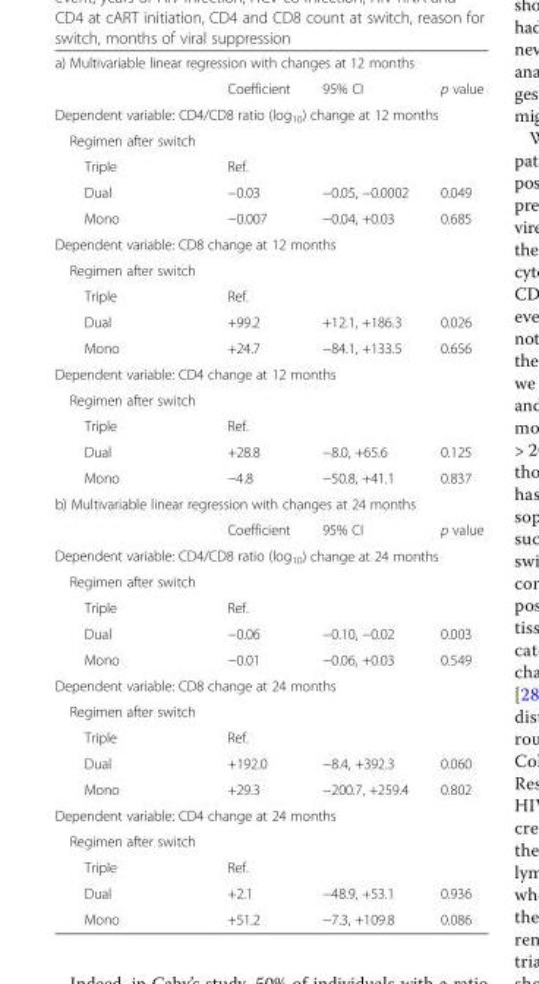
<table><tbody><tr><td colspan="4">a) Multivariable linear regression with changes at 12 months</td></tr><tr><td></td><td>Coefficient</td><td>95% CI</td><td>p value</td></tr><tr><td colspan="4">Dependent variable: CD4/CD8 ratio (log<sub>10</sub>) change at 12 months</td></tr><tr><td colspan="4">Regimen after switch</td></tr><tr><td>Triple</td><td>Ref.</td><td></td><td></td></tr><tr><td>Dual</td><td>−0.03</td><td>−0.05, −0.0002</td><td>0.049</td></tr><tr><td>Mono</td><td>−0.007</td><td>−0.04, +0.03</td><td>0.685</td></tr><tr><td colspan="4">Dependent variable: CD8 change at 12 months</td></tr><tr><td colspan="4">Regimen after switch</td></tr><tr><td>Triple</td><td>Ref.</td><td></td><td></td></tr><tr><td>Dual</td><td>+99.2</td><td>+12.1, +186.3</td><td>0.026</td></tr><tr><td>Mono</td><td>+24.7</td><td>−84.1, +133.5</td><td>0.656</td></tr><tr><td colspan="4">Dependent variable: CD4 change at 12 months</td></tr><tr><td colspan="4">Regimen after switch</td></tr><tr><td>Triple</td><td>Ref.</td><td></td><td></td></tr><tr><td>Dual</td><td>+28.8</td><td>−8.0, +65.6</td><td>0.125</td></tr><tr><td>Mono</td><td>−4.8</td><td>−50.8, +41.1</td><td>0.837</td></tr><tr><td colspan="4">b) Multivariable linear regression with changes at 24 months</td></tr><tr><td></td><td>Coefficient</td><td>95% CI</td><td>p value</td></tr><tr><td colspan="4">Dependent variable: CD4/CD8 ratio (log<sub>10</sub>) change at 24 months</td></tr><tr><td colspan="4">Regimen after switch</td></tr><tr><td>Triple</td><td>Ref.</td><td></td><td></td></tr><tr><td>Dual</td><td>−0.06</td><td>−0.10, −0.02</td><td>0.003</td></tr><tr><td>Mono</td><td>−0.01</td><td>−0.06, +0.03</td><td>0.549</td></tr><tr><td colspan="4">Dependent variable: CD8 change at 24 months</td></tr><tr><td colspan="4">Regimen after switch</td></tr><tr><td>Triple</td><td>Ref.</td><td></td><td></td></tr><tr><td>Dual</td><td>+192.0</td><td>−8.4, +392.3</td><td>0.060</td></tr><tr><td>Mono</td><td>+29.3</td><td>−200.7, +259.4</td><td>0.802</td></tr><tr><td colspan="4">Dependent variable: CD4 change at 24 months</td></tr><tr><td colspan="4">Regimen after switch</td></tr><tr><td>Triple</td><td>Ref.</td><td></td><td></td></tr><tr><td>Dual</td><td>+2.1</td><td>−48.9, +53.1</td><td>0.936</td></tr><tr><td>Mono</td><td>+51.2</td><td>−7.3, +109.8</td><td>0.086</td></tr></tbody></table>